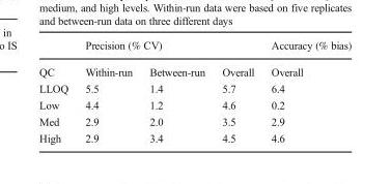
<table><thead><tr><td rowspan="2">QC</td><td colspan="3">Precision (% CV)</td><td rowspan="2">Accuracy (% bias) Overall</td></tr><tr><td>Within-run</td><td>Between-run</td><td>Overall</td></tr></thead><tbody><tr><td>LLOQ</td><td>5.5</td><td>1.4</td><td>5.7</td><td>6.4</td></tr><tr><td>Low</td><td>4.4</td><td>1.2</td><td>4.6</td><td>0.2</td></tr><tr><td>Med</td><td>2.9</td><td>2.0</td><td>3.5</td><td>2.9</td></tr><tr><td>High</td><td>2.9</td><td>3.4</td><td>4.5</td><td>4.6</td></tr></tbody></table>